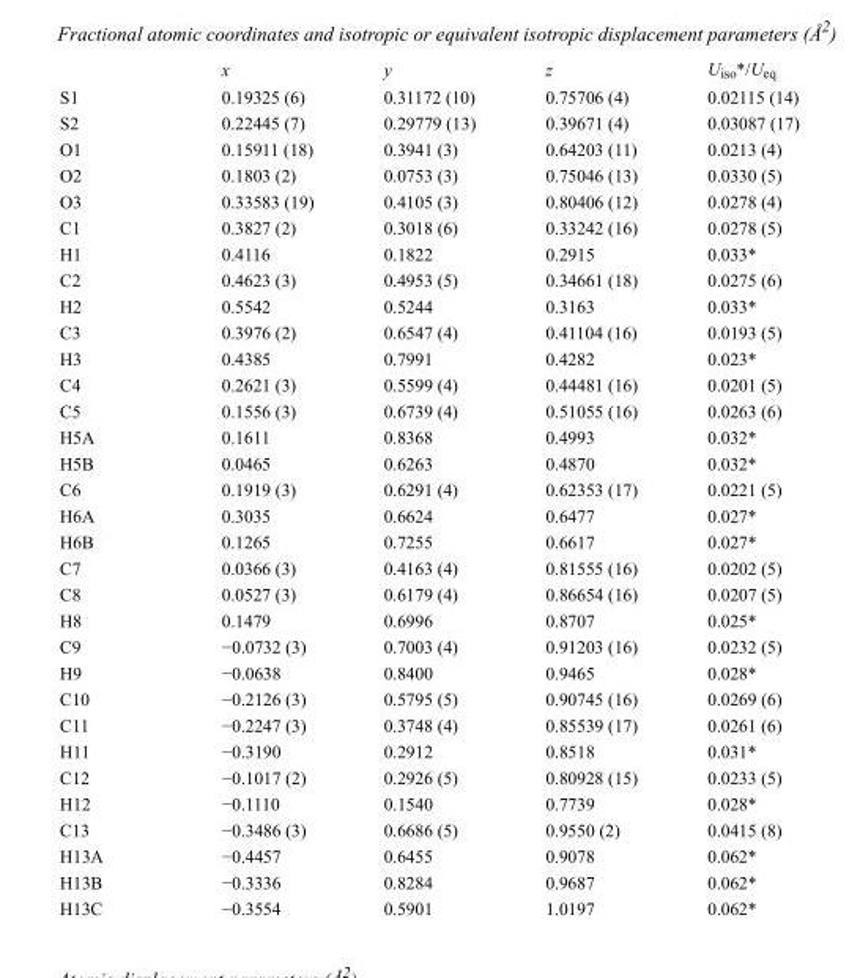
<table><thead><tr><td></td><td>x</td><td>y</td><td>z</td><td>U<sub>iso</sub>*/U<sub>eq</sub></td></tr></thead><tbody><tr><td>S1</td><td>0.19325 (6)</td><td>0.31172 (10)</td><td>0.75706 (4)</td><td>0.02115 (14)</td></tr><tr><td>S2</td><td>0.22445 (7)</td><td>0.29779 (13)</td><td>0.39671 (4)</td><td>0.03087 (17)</td></tr><tr><td>O1</td><td>0.15911 (18)</td><td>0.3941 (3)</td><td>0.64203 (11)</td><td>0.0213 (4)</td></tr><tr><td>O2</td><td>0.1803 (2)</td><td>0.0753 (3)</td><td>0.75046 (13)</td><td>0.0330 (5)</td></tr><tr><td>O3</td><td>0.33583 (19)</td><td>0.4105 (3)</td><td>0.80406 (12)</td><td>0.0278 (4)</td></tr><tr><td>C1</td><td>0.3827 (2)</td><td>0.3018 (6)</td><td>0.33242 (16)</td><td>0.0278 (5)</td></tr><tr><td>H1</td><td>0.4116</td><td>0.1822</td><td>0.2915</td><td>0.033*</td></tr><tr><td>C2</td><td>0.4623 (3)</td><td>0.4953 (5)</td><td>0.34661 (18)</td><td>0.0275 (6)</td></tr><tr><td>H2</td><td>0.5542</td><td>0.5244</td><td>0.3163</td><td>0.033*</td></tr><tr><td>C3</td><td>0.3976 (2)</td><td>0.6547 (4)</td><td>0.41104 (16)</td><td>0.0193 (5)</td></tr><tr><td>H3</td><td>0.4385</td><td>0.7991</td><td>0.4282</td><td>0.023*</td></tr><tr><td>C4</td><td>0.2621 (3)</td><td>0.5599 (4)</td><td>0.44481 (16)</td><td>0.0201 (5)</td></tr><tr><td>C5</td><td>0.1556 (3)</td><td>0.6739 (4)</td><td>0.51055 (16)</td><td>0.0263 (6)</td></tr><tr><td>H5A</td><td>0.1611</td><td>0.8368</td><td>0.4993</td><td>0.032*</td></tr><tr><td>H5B</td><td>0.0465</td><td>0.6263</td><td>0.4870</td><td>0.032*</td></tr><tr><td>C6</td><td>0.1919 (3)</td><td>0.6291 (4)</td><td>0.62353 (17)</td><td>0.0221 (5)</td></tr><tr><td>H6A</td><td>0.3035</td><td>0.6624</td><td>0.6477</td><td>0.027*</td></tr><tr><td>H6B</td><td>0.1265</td><td>0.7255</td><td>0.6617</td><td>0.027*</td></tr><tr><td>C7</td><td>0.0366 (3)</td><td>0.4163 (4)</td><td>0.81555 (16)</td><td>0.0202 (5)</td></tr><tr><td>C8</td><td>0.0527 (3)</td><td>0.6179 (4)</td><td>0.86654 (16)</td><td>0.0207 (5)</td></tr><tr><td>H8</td><td>0.1479</td><td>0.6996</td><td>0.8707</td><td>0.025*</td></tr><tr><td>C9</td><td>−0.0732 (3)</td><td>0.7003 (4)</td><td>0.91203 (16)</td><td>0.0232 (5)</td></tr><tr><td>H9</td><td>−0.0638</td><td>0.8400</td><td>0.9465</td><td>0.028*</td></tr><tr><td>C10</td><td>−0.2126 (3)</td><td>0.5795 (5)</td><td>0.90745 (16)</td><td>0.0269 (6)</td></tr><tr><td>C11</td><td>−0.2247 (3)</td><td>0.3748 (4)</td><td>0.85539 (17)</td><td>0.0261 (6)</td></tr><tr><td>H11</td><td>−0.3190</td><td>0.2912</td><td>0.8518</td><td>0.031*</td></tr><tr><td>C12</td><td>−0.1017 (2)</td><td>0.2926 (5)</td><td>0.80928 (15)</td><td>0.0233 (5)</td></tr><tr><td>H12</td><td>−0.1110</td><td>0.1540</td><td>0.7739</td><td>0.028*</td></tr><tr><td>C13</td><td>−0.3486 (3)</td><td>0.6686 (5)</td><td>0.9550 (2)</td><td>0.0415 (8)</td></tr><tr><td>H13A</td><td>−0.4457</td><td>0.6455</td><td>0.9078</td><td>0.062*</td></tr><tr><td>H13B</td><td>−0.3336</td><td>0.8284</td><td>0.9687</td><td>0.062*</td></tr><tr><td>H13C</td><td>−0.3554</td><td>0.5901</td><td>1.0197</td><td>0.062*</td></tr></tbody></table>